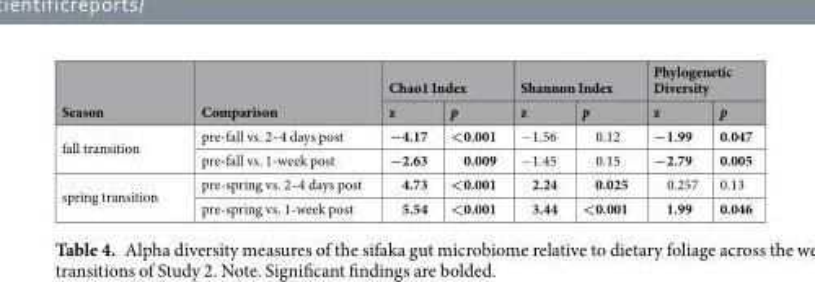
<table><thead><tr><td rowspan="2">Season</td><td rowspan="2">Comparison</td><td colspan="2">Chao1 Index</td><td colspan="2">Shannon Index</td><td colspan="2">Phylogenetic Diversity</td></tr><tr><td>z</td><td>p</td><td>z</td><td>p</td><td>z</td><td>p</td></tr></thead><tbody><tr><td rowspan="2">fall transition</td><td>pre-fall vs. 2–4 days post</td><td>−4.17</td><td>&lt;0.001</td><td>−1.56</td><td>0.12</td><td>−1.99</td><td>0.047</td></tr><tr><td>pre-fall vs. 1-week post</td><td>−2.63</td><td>0.009</td><td>−1.45</td><td>0.15</td><td>−2.79</td><td>0.005</td></tr><tr><td rowspan="2">spring transition</td><td>pre-spring vs. 2–4 days post</td><td>4.73</td><td>&lt;0.001</td><td>2.24</td><td>0.025</td><td>0.257</td><td>0.13</td></tr><tr><td>pre-spring vs. 1-week post</td><td>5.54</td><td>&lt;0.001</td><td>3.44</td><td>&lt;0.001</td><td>1.99</td><td>0.046</td></tr></tbody></table>